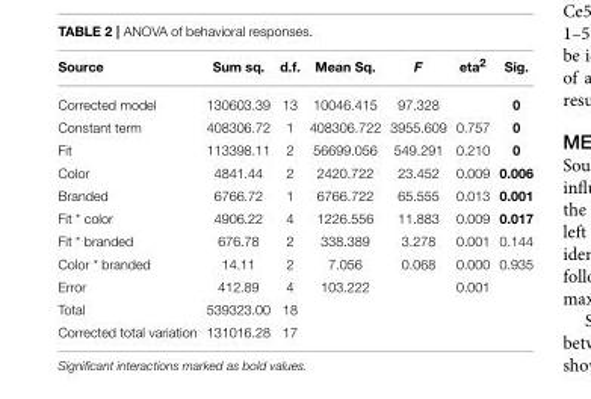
<table><thead><tr><td>Source</td><td>Sum sq.</td><td>d.f.</td><td>Mean Sq.</td><td>F</td><td>eta<sup>2</sup></td><td>Sig.</td></tr></thead><tbody><tr><td>Corrected model</td><td>130603.39</td><td>13</td><td>10046.415</td><td>97.328</td><td></td><td>0</td></tr><tr><td>Constant term</td><td>408306.72</td><td>1</td><td>408306.722</td><td>3955.609</td><td>0.757</td><td>0</td></tr><tr><td>Fit</td><td>113398.11</td><td>2</td><td>56699.056</td><td>549.291</td><td>0.210</td><td>0</td></tr><tr><td>Color</td><td>4841.44</td><td>2</td><td>2420.722</td><td>23.452</td><td>0.009</td><td>0.006</td></tr><tr><td>Branded</td><td>6766.72</td><td>1</td><td>6766.722</td><td>65.555</td><td>0.013</td><td>0.001</td></tr><tr><td>Fit * color</td><td>4906.22</td><td>4</td><td>1226.556</td><td>11.883</td><td>0.009</td><td>0.017</td></tr><tr><td>Fit * branded</td><td>676.78</td><td>2</td><td>338.389</td><td>3.278</td><td>0.001</td><td>0.144</td></tr><tr><td>Color * branded</td><td>14.11</td><td>2</td><td>7.056</td><td>0.068</td><td>0.000</td><td>0.935</td></tr><tr><td>Error</td><td>412.89</td><td>4</td><td>103.222</td><td></td><td>0.001</td><td></td></tr><tr><td>Total</td><td>539323.00</td><td>18</td><td></td><td></td><td></td><td></td></tr><tr><td>Corrected total variation</td><td>131016.28</td><td>17</td><td></td><td></td><td></td><td></td></tr></tbody></table>